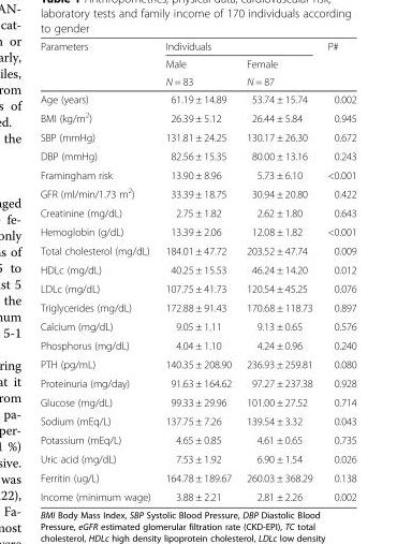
<table><thead><tr><td rowspan="3">Parameters</td><td colspan="2">Indivíduals</td><td rowspan="3">P#</td></tr><tr><td rowspan="2">Male N = 83</td><td rowspan="2">Female N = 87</td></tr><tr></tr></thead><tbody><tr><td>Age (years)</td><td>61.19 ± 14.89</td><td>53.74 ± 15.74</td><td>0.002</td></tr><tr><td>BMI (kg/m<sup>2</sup>)</td><td>26.39 ± 5.12</td><td>26.44 ± 5.84</td><td>0.945</td></tr><tr><td>SBP (mmHg)</td><td>131.81 ± 24.25</td><td>130.17 ± 26.30</td><td>0.672</td></tr><tr><td>DBP (mmHg)</td><td>82.56 ± 15.35</td><td>80.00 ± 13.16</td><td>0.243</td></tr><tr><td>Framingham risk</td><td>13.90 ± 8.96</td><td>5.73 ± 6.10</td><td>&lt;0.001</td></tr><tr><td>GFR (ml/min/1.73 m<sup>2</sup>)</td><td>33.39 ± 18.75</td><td>30.94 ± 20.80</td><td>0.422</td></tr><tr><td>Creatinine (mg/dL)</td><td>2.75 ± 1.82</td><td>2.62 ± 1.80</td><td>0.643</td></tr><tr><td>Hemoglobin (g/dL)</td><td>13.39 ± 2.06</td><td>12.08 ± 1.82</td><td>&lt;0.001</td></tr><tr><td>Total cholesterol (mg/dL)</td><td>184.01 ± 47.72</td><td>203.52 ± 47.74</td><td>0.009</td></tr><tr><td>HDLc (mg/dL)</td><td>40.25 ± 15.53</td><td>46.24 ± 14.20</td><td>0.012</td></tr><tr><td>LDLc (mg/dL)</td><td>107.75 ± 41.73</td><td>120.54 ± 45.25</td><td>0.076</td></tr><tr><td>Triglycerides (mg/dL)</td><td>172.88 ± 91.43</td><td>170.68 ± 118.73</td><td>0.897</td></tr><tr><td>Calcium (mg/dL)</td><td>9.05 ± 1.11</td><td>9.13 ± 0.65</td><td>0.576</td></tr><tr><td>Phosphorus (mg/dL)</td><td>4.04 ± 1.10</td><td>4.24 ± 0.96</td><td>0.240</td></tr><tr><td>PTH (pg/mL)</td><td>140.35 ± 208.90</td><td>236.93 ± 259.81</td><td>0.080</td></tr><tr><td>Proteinuria (mg/day)</td><td>91.63 ± 164.62</td><td>97.27 ± 237.38</td><td>0.928</td></tr><tr><td>Glucose (mg/dL)</td><td>99.33 ± 29.96</td><td>101.00 ± 27.52</td><td>0.714</td></tr><tr><td>Sodium (mEq/L)</td><td>137.75 ± 7.26</td><td>139.54 ± 3.32</td><td>0.043</td></tr><tr><td>Potassium (mEq/L)</td><td>4.65 ± 0.85</td><td>4.61 ± 0.65</td><td>0.735</td></tr><tr><td>Uric acid (mg/dL)</td><td>7.53 ± 1.92</td><td>6.90 ± 1.54</td><td>0.026</td></tr><tr><td>Ferritin (ug/L)</td><td>164.78 ± 189.67</td><td>260.03 ± 368.29</td><td>0.138</td></tr><tr><td>Income (minimum wage)</td><td>3.88 ± 2.21</td><td>2.81 ± 2.26</td><td>0.002</td></tr></tbody></table>